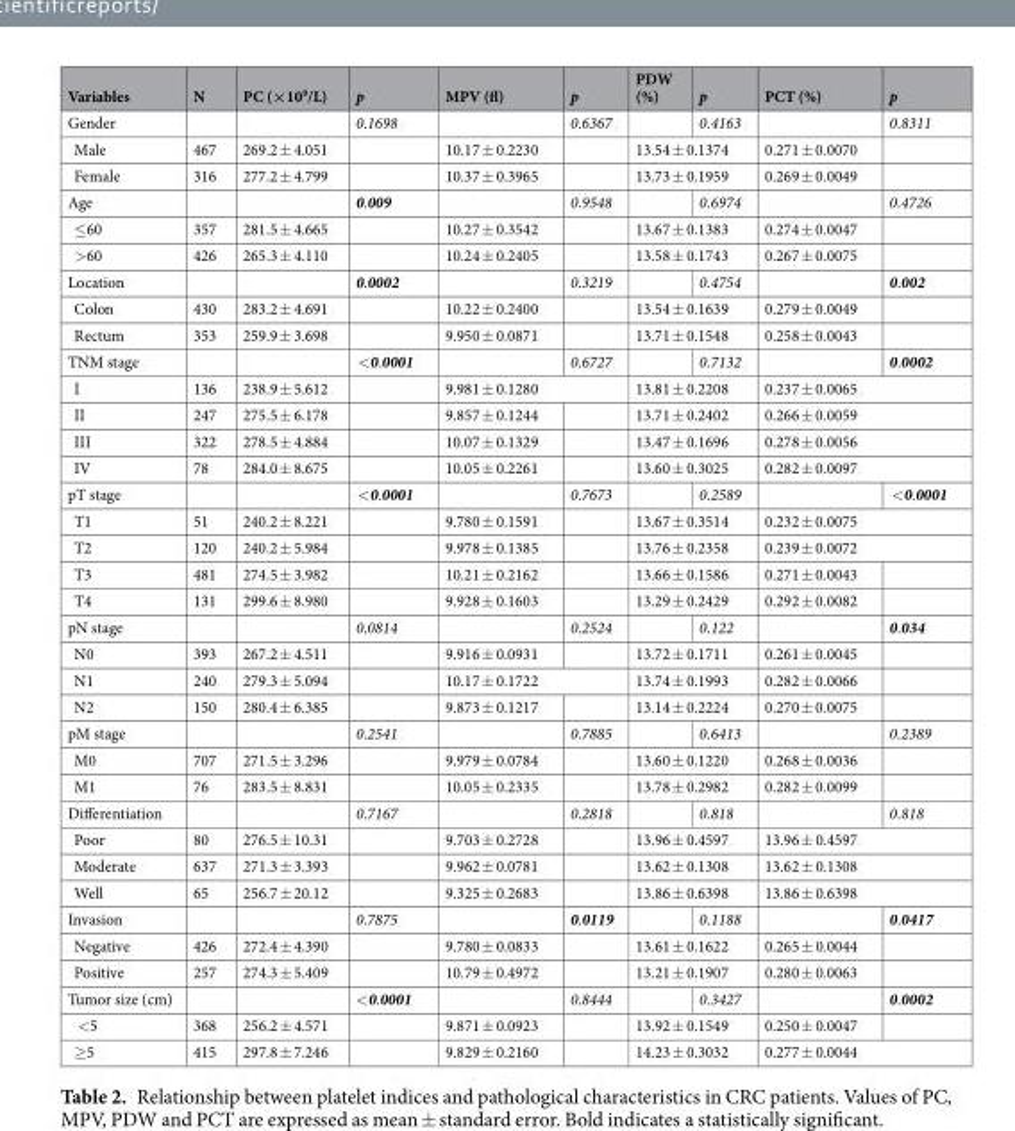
<table><thead><tr><td>Variables</td><td>N</td><td>PC (×10<sup>9</sup>/L)</td><td>p</td><td>MPV (fl)</td><td>p</td><td>PDW (%)</td><td>p</td><td>PCT (%)</td><td>p</td></tr></thead><tbody><tr><td>Gender</td><td></td><td></td><td>0.1698</td><td></td><td>0.6367</td><td></td><td>0.4163</td><td></td><td>0.8311</td></tr><tr><td>Male</td><td>467</td><td>269.2 ± 4.051</td><td></td><td>10.17 ± 0.2230</td><td></td><td colspan="2">13.54 ± 0.1374</td><td>0.271 ± 0.0070</td><td></td></tr><tr><td>Female</td><td>316</td><td>277.2 ± 4.799</td><td></td><td>10.37 ± 0.3965</td><td></td><td colspan="2">13.73 ± 0.1959</td><td>0.269 ± 0.0049</td><td></td></tr><tr><td>Age</td><td></td><td></td><td>0.009</td><td></td><td>0.9548</td><td></td><td>0.6974</td><td></td><td>0.4726</td></tr><tr><td>≤60</td><td>357</td><td>281.5 ± 4.665</td><td></td><td>10.27 ± 0.3542</td><td></td><td colspan="2">13.67 ± 0.1383</td><td>0.274 ± 0.0047</td><td></td></tr><tr><td>&gt;60</td><td>426</td><td>265.3 ± 4.110</td><td></td><td>10.24 ± 0.2405</td><td></td><td colspan="2">13.58 ± 0.1743</td><td>0.267 ± 0.0075</td><td></td></tr><tr><td>Location</td><td></td><td></td><td>0.0002</td><td></td><td>0.3219</td><td></td><td>0.4754</td><td></td><td>0.002</td></tr><tr><td>Colon</td><td>430</td><td>283.2 ± 4.691</td><td></td><td>10.22 ± 0.2400</td><td></td><td colspan="2">13.54 ± 0.1639</td><td>0.279 ± 0.0049</td><td></td></tr><tr><td>Rectum</td><td>353</td><td>259.9 ± 3.698</td><td></td><td>9.950 ± 0.0871</td><td></td><td colspan="2">13.71 ± 0.1548</td><td>0.258 ± 0.0043</td><td></td></tr><tr><td>TNM stage</td><td></td><td></td><td>&lt;0.0001</td><td></td><td>0.6727</td><td></td><td>0.7132</td><td></td><td>0.0002</td></tr><tr><td>I</td><td>136</td><td>238.9 ± 5.612</td><td></td><td colspan="2">9.981 ± 0.1280</td><td colspan="2">13.81 ± 0.2208</td><td colspan="2">0.237 ± 0.0065</td></tr><tr><td>II</td><td>247</td><td>275.5 ± 6.178</td><td></td><td>9.857 ± 0.1244</td><td></td><td colspan="2">13.71 ± 0.2402</td><td colspan="2">0.266 ± 0.0059</td></tr><tr><td>III</td><td>322</td><td>278.5 ± 4.884</td><td></td><td>10.07 ± 0.1329</td><td></td><td colspan="2">13.47 ± 0.1696</td><td colspan="2">0.278 ± 0.0056</td></tr><tr><td>IV</td><td>78</td><td>284.0 ± 8.675</td><td></td><td>10.05 ± 0.2261</td><td></td><td colspan="2">13.60 ± 0.3025</td><td colspan="2">0.282 ± 0.0097</td></tr><tr><td>pT stage</td><td></td><td></td><td>&lt;0.0001</td><td></td><td>0.7673</td><td></td><td>0.2589</td><td></td><td>&lt;0.0001</td></tr><tr><td>T1</td><td>51</td><td>240.2 ± 8.221</td><td></td><td>9.780 ± 0.1591</td><td></td><td colspan="2">13.67 ± 0.3514</td><td colspan="2">0.232 ± 0.0075</td></tr><tr><td>T2</td><td>120</td><td>240.2 ± 5.984</td><td></td><td>9.978 ± 0.1385</td><td></td><td colspan="2">13.76 ± 0.2358</td><td colspan="2">0.239 ± 0.0072</td></tr><tr><td>T3</td><td>481</td><td>274.5 ± 3.982</td><td></td><td>10.21 ± 0.2162</td><td></td><td colspan="2">13.66 ± 0.1586</td><td>0.271 ± 0.0043</td><td></td></tr><tr><td>T4</td><td>131</td><td>299.6 ± 8.980</td><td></td><td>9.928 ± 0.1603</td><td></td><td colspan="2">13.29 ± 0.2429</td><td>0.292 ± 0.0082</td><td></td></tr><tr><td>pN stage</td><td></td><td></td><td>0.0814</td><td></td><td>0.2524</td><td></td><td>0.122</td><td></td><td>0.034</td></tr><tr><td>N0</td><td>393</td><td>267.2 ± 4.511</td><td></td><td>9.916 ± 0.0931</td><td></td><td colspan="2">13.72 ± 0.1711</td><td>0.261 ± 0.0045</td><td></td></tr><tr><td>N1</td><td>240</td><td>279.3 ± 5.094</td><td></td><td colspan="2">10.17 ± 0.1722</td><td colspan="2">13.74 ± 0.1993</td><td>0.282 ± 0.0066</td><td></td></tr><tr><td>N2</td><td>150</td><td>280.4 ± 6.385</td><td></td><td>9.873 ± 0.1217</td><td></td><td colspan="2">13.14 ± 0.2224</td><td>0.270 ± 0.0075</td><td></td></tr><tr><td>pM stage</td><td></td><td></td><td>0.2541</td><td></td><td>0.7885</td><td></td><td>0.6413</td><td></td><td>0.2389</td></tr><tr><td>M0</td><td>707</td><td>271.5 ± 3.296</td><td></td><td>9.979 ± 0.0784</td><td></td><td colspan="2">13.60 ± 0.1220</td><td>0.268 ± 0.0036</td><td></td></tr><tr><td>M1</td><td>76</td><td>283.5 ± 8.831</td><td></td><td>10.05 ± 0.2335</td><td></td><td colspan="2">13.78 ± 0.2982</td><td>0.282 ± 0.0099</td><td></td></tr><tr><td>Differentiation</td><td></td><td></td><td>0.7167</td><td></td><td>0.2818</td><td></td><td>0.818</td><td></td><td>0.818</td></tr><tr><td>Poor</td><td>80</td><td>276.5 ± 10.31</td><td></td><td>9.703 ± 0.2728</td><td></td><td colspan="2">13.96 ± 0.4597</td><td colspan="2">13.96 ± 0.4597</td></tr><tr><td>Moderate</td><td>637</td><td>271.3 ± 3.393</td><td></td><td>9.962 ± 0.0781</td><td></td><td colspan="2">13.62 ± 0.1308</td><td colspan="2">13.62 ± 0.1308</td></tr><tr><td>Well</td><td>65</td><td>256.7 ± 20.12</td><td></td><td>9.325 ± 0.2683</td><td></td><td colspan="2">13.86 ± 0.6398</td><td colspan="2">13.86 ± 0.6398</td></tr><tr><td>Invasion</td><td></td><td></td><td>0.7875</td><td></td><td>0.0119</td><td></td><td>0.1188</td><td></td><td>0.0417</td></tr><tr><td>Negative</td><td>426</td><td>272.4 ± 4.390</td><td></td><td>9.780 ± 0.0833</td><td></td><td colspan="2">13.61 ± 0.1622</td><td>0.265 ± 0.0044</td><td></td></tr><tr><td>Positive</td><td>257</td><td>274.3 ± 5.409</td><td></td><td>10.79 ± 0.4972</td><td></td><td colspan="2">13.21 ± 0.1907</td><td>0.280 ± 0.0063</td><td></td></tr><tr><td>Tumor size (cm)</td><td></td><td></td><td>&lt;0.0001</td><td></td><td>0.8444</td><td></td><td>0.3427</td><td></td><td>0.0002</td></tr><tr><td>&lt;5</td><td>368</td><td>256.2 ± 4.571</td><td></td><td>9.871 ± 0.0923</td><td></td><td colspan="2">13.92 ± 0.1549</td><td>0.250 ± 0.0047</td><td></td></tr><tr><td>≥5</td><td>415</td><td>297.8 ± 7.246</td><td></td><td>9.829 ± 0.2160</td><td></td><td colspan="2">14.23 ± 0.3032</td><td colspan="2">0.277 ± 0.0044</td></tr></tbody></table>